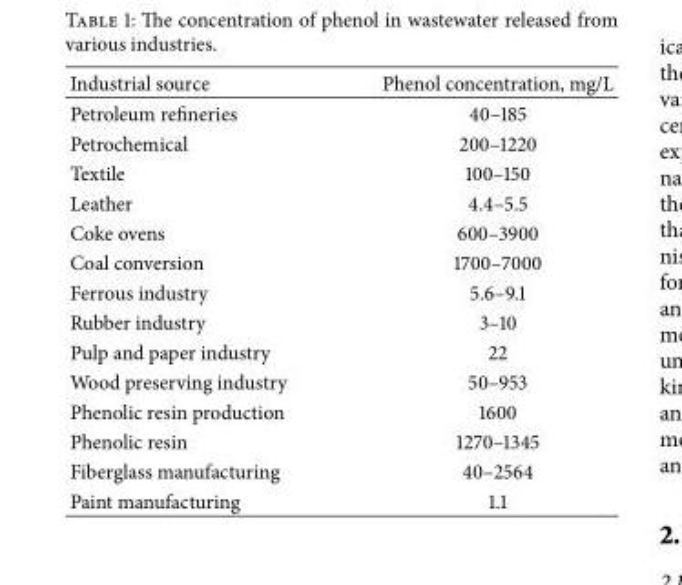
<table><thead><tr><td>Industrial source</td><td>Phenol concentration, mg/L</td></tr></thead><tbody><tr><td>Petroleum refineries</td><td>40–185</td></tr><tr><td>Petrochemical</td><td>200–1220</td></tr><tr><td>Textile</td><td>100–150</td></tr><tr><td>Leather</td><td>4.4–5.5</td></tr><tr><td>Coke ovens</td><td>600–3900</td></tr><tr><td>Coal conversion</td><td>1700–7000</td></tr><tr><td>Ferrous industry</td><td>5.6–9.1</td></tr><tr><td>Rubber industry</td><td>3–10</td></tr><tr><td>Pulp and paper industry</td><td>22</td></tr><tr><td>Wood preserving industry</td><td>50–953</td></tr><tr><td>Phenolic resin production</td><td>1600</td></tr><tr><td>Phenolic resin</td><td>1270–1345</td></tr><tr><td>Fiberglass manufacturing</td><td>40–2564</td></tr><tr><td>Paint manufacturing</td><td>1.1</td></tr></tbody></table>